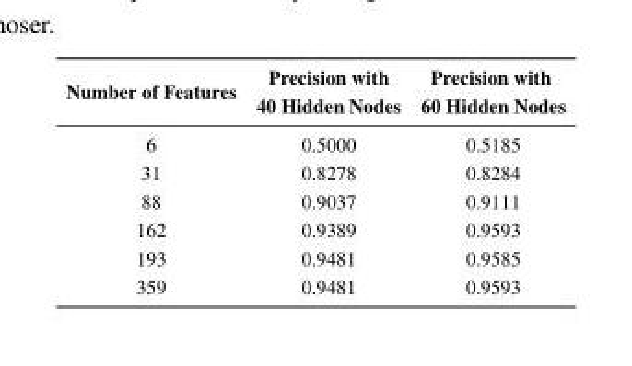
<table><thead><tr><td>Number of Features</td><td>Precision with 40 Hidden Nodes</td><td>Precision with 60 Hidden Nodes</td></tr></thead><tbody><tr><td>6</td><td>0.5000</td><td>0.5185</td></tr><tr><td>31</td><td>0.8278</td><td>0.8284</td></tr><tr><td>88</td><td>0.9037</td><td>0.9111</td></tr><tr><td>162</td><td>0.9389</td><td>0.9593</td></tr><tr><td>193</td><td>0.9481</td><td>0.9585</td></tr><tr><td>359</td><td>0.9481</td><td>0.9593</td></tr></tbody></table>